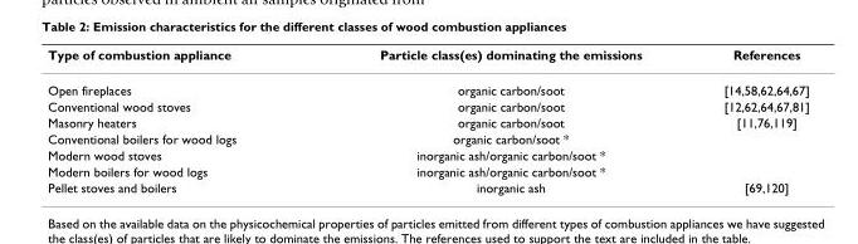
<table><thead><tr><td>Type of combustion appliance</td><td>Particle class(es) dominating the emissions</td><td>References</td></tr></thead><tbody><tr><td>Open fireplaces</td><td>organic carbon/soot</td><td>[14,58,62,64,67]</td></tr><tr><td>Conventional wood stoves</td><td>organic carbon/soot</td><td>[12,62,64,67,81]</td></tr><tr><td>Masonry heaters</td><td>organic carbon/soot</td><td>[11,76,119]</td></tr><tr><td>Conventional boilers for wood logs</td><td>organic carbon/soot *</td><td></td></tr><tr><td>Modern wood stoves</td><td>inorganic ash/organic carbon/soot *</td><td></td></tr><tr><td>Modern boilers for wood logs</td><td>inorganic ash/organic carbon/soot *</td><td></td></tr><tr><td>Pellet stoves and boilers</td><td>inorganic ash</td><td>[69,120]</td></tr></tbody></table>